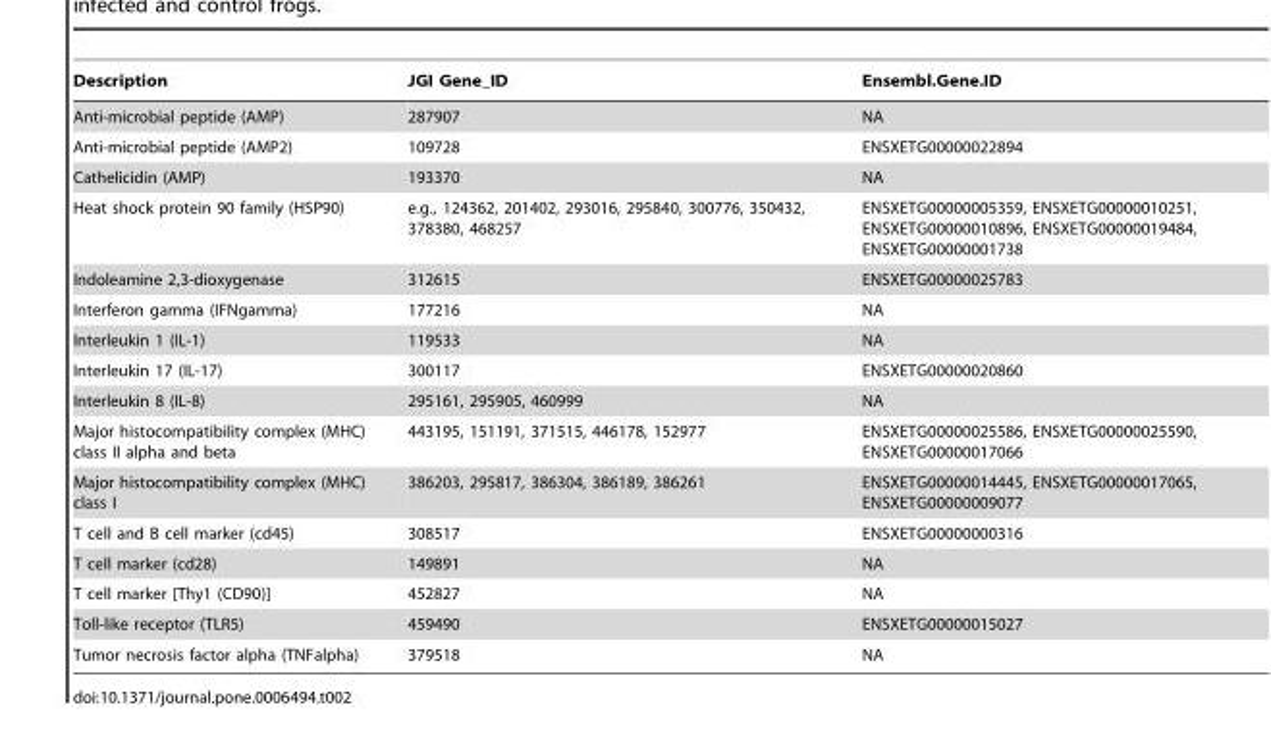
<table><thead><tr><td>Description</td><td>JGI Gene_ID</td><td>Ensembl.Gene.ID</td></tr></thead><tbody><tr><td>Anti-microbial peptide (AMP)</td><td>287907</td><td>NA</td></tr><tr><td>Anti-microbial peptide (AMP2)</td><td>109728</td><td>ENSXETG00000022894</td></tr><tr><td>Cathelicidin (AMP)</td><td>193370</td><td>NA</td></tr><tr><td>Heat shock protein 90 family (HSP90)</td><td>e.g., 124362, 201402, 293016, 295840, 300776, 350432, 378380, 468257</td><td>ENSXETG00000005359, ENSXETG00000010251, ENSXETG00000010896, ENSXETG00000019484, ENSXETG00000001738</td></tr><tr><td>Indoleamine 2,3-dioxygenase</td><td>312615</td><td>ENSXETG00000025783</td></tr><tr><td>Interferon gamma (IFNgamma)</td><td>177216</td><td>NA</td></tr><tr><td>Interleukin 1 (IL-1)</td><td>119533</td><td>NA</td></tr><tr><td>Interleukin 17 (IL-17)</td><td>300117</td><td>ENSXETG00000020860</td></tr><tr><td>Interleukin 8 (IL-8)</td><td>295161, 295905, 460999</td><td>NA</td></tr><tr><td>Major histocompatibility complex (MHC) class II alpha and beta</td><td>443195, 151191, 371515, 446178, 152977</td><td>ENSXETG00000025586, ENSXETG00000025590, ENSXETG00000017066</td></tr><tr><td>Major histocompatibility complex (MHC) class I</td><td>386203, 295817, 386304, 386189, 386261</td><td>ENSXETG00000014445, ENSXETG00000017065, ENSXETG00000009077</td></tr><tr><td>T cell and B cell marker (cd45)</td><td>308517</td><td>ENSXETG00000000316</td></tr><tr><td>T cell marker (cd28)</td><td>149891</td><td>NA</td></tr><tr><td>T cell marker [Thy1 (CD90)]</td><td>452827</td><td>NA</td></tr><tr><td>Toll-like receptor (TLR5)</td><td>459490</td><td>ENSXETG00000015027</td></tr><tr><td>Tumor necrosis factor alpha (TNFalpha)</td><td>379518</td><td>NA</td></tr></tbody></table>